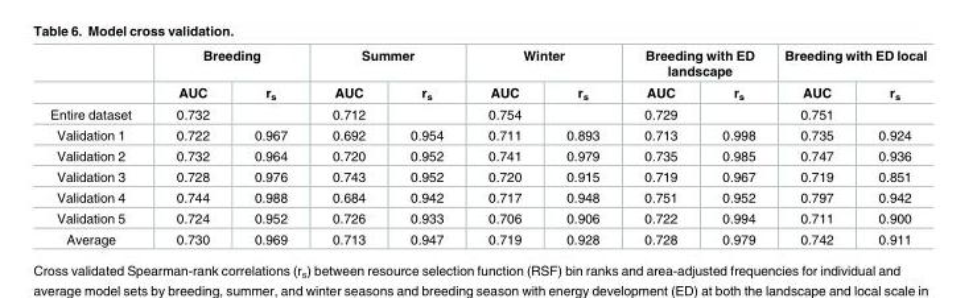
<table><thead><tr><td rowspan="2"></td><td colspan="2">Breeding</td><td colspan="2">Summer</td><td colspan="2">Winter</td><td colspan="2">Breeding with ED landscape</td><td colspan="2">Breeding with ED local</td></tr><tr><td>AUC</td><td>r<sub>s</sub></td><td>AUC</td><td>r<sub>s</sub></td><td>AUC</td><td>r<sub>s</sub></td><td>AUC</td><td>r<sub>s</sub></td><td>AUC</td><td>r<sub>s</sub></td></tr></thead><tbody><tr><td>Entire dataset</td><td>0.732</td><td></td><td>0.712</td><td></td><td>0.754</td><td></td><td>0.729</td><td></td><td>0.751</td><td></td></tr><tr><td>Validation 1</td><td>0.722</td><td>0.967</td><td>0.692</td><td>0.954</td><td>0.711</td><td>0.893</td><td>0.713</td><td>0.998</td><td>0.735</td><td>0.924</td></tr><tr><td>Validation 2</td><td>0.732</td><td>0.964</td><td>0.720</td><td>0.952</td><td>0.741</td><td>0.979</td><td>0.735</td><td>0.985</td><td>0.747</td><td>0.936</td></tr><tr><td>Validation 3</td><td>0.728</td><td>0.976</td><td>0.743</td><td>0.952</td><td>0.720</td><td>0.915</td><td>0.719</td><td>0.967</td><td>0.719</td><td>0.851</td></tr><tr><td>Validation 4</td><td>0.744</td><td>0.988</td><td>0.684</td><td>0.942</td><td>0.717</td><td>0.948</td><td>0.751</td><td>0.952</td><td>0.797</td><td>0.942</td></tr><tr><td>Validation 5</td><td>0.724</td><td>0.952</td><td>0.726</td><td>0.933</td><td>0.706</td><td>0.906</td><td>0.722</td><td>0.994</td><td>0.711</td><td>0.900</td></tr><tr><td>Average</td><td>0.730</td><td>0.969</td><td>0.713</td><td>0.947</td><td>0.719</td><td>0.928</td><td>0.728</td><td>0.979</td><td>0.742</td><td>0.911</td></tr></tbody></table>